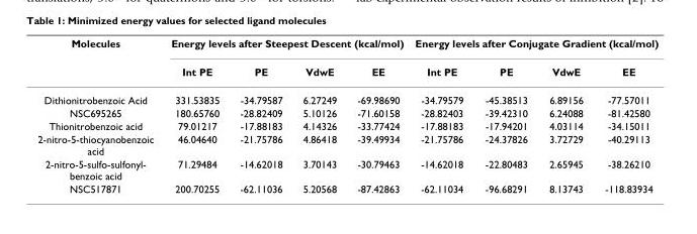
<table><thead><tr><td rowspan="2">Molecules</td><td colspan="4">Energy levels after Steepest Descent (kcal/mol)</td><td colspan="4">Energy levels after Conjugate Gradient (kcal/mol)</td></tr><tr><td>Int PE</td><td>PE</td><td>VdwE</td><td>EE</td><td>Int PE</td><td>PE</td><td>VdwE</td><td>EE</td></tr></thead><tbody><tr><td>Dithionitrobenzoic Acid</td><td>331.53835</td><td>-34.79587</td><td>6.27249</td><td>-69.98690</td><td>-34.79579</td><td>-45.38513</td><td>6.89156</td><td>-77.57011</td></tr><tr><td>NSC695265</td><td>180.65760</td><td>-28.82409</td><td>5.10126</td><td>-71.60158</td><td>-28.82403</td><td>-39.42310</td><td>6.24088</td><td>-81.42580</td></tr><tr><td>Thionitrobenzoic acid</td><td>79.01217</td><td>-17.88183</td><td>4.14326</td><td>-33.77424</td><td>-17.88183</td><td>-17.94201</td><td>4.03114</td><td>-34.15011</td></tr><tr><td>2-nitro-5-thiocyanobenzoic acid</td><td>46.04640</td><td>-21.75786</td><td>4.86418</td><td>-39.49934</td><td>-21.75786</td><td>-24.37826</td><td>3.72729</td><td>-40.29113</td></tr><tr><td>2-nitro-5-sulfo-sulfonyl- benzoic acid</td><td>71.29484</td><td>-14.62018</td><td>3.70143</td><td>-30.79463</td><td>-14.62018</td><td>-22.80483</td><td>2.65945</td><td>-38.26210</td></tr><tr><td>NSC517871</td><td>200.70255</td><td>-62.11036</td><td>5.20568</td><td>-87.42863</td><td>-62.11034</td><td>-96.68291</td><td>8.13743</td><td>-118.83934</td></tr></tbody></table>